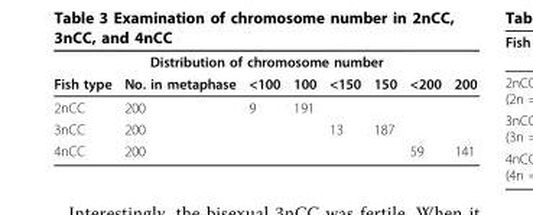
<table><thead><tr><td colspan="8">Distribution of chromosome number</td></tr><tr><td>Fish type</td><td>No. in metaphase</td><td>&lt;100</td><td>100</td><td>&lt;150</td><td>150</td><td>&lt;200</td><td>200</td></tr></thead><tbody><tr><td>2nCC</td><td>200</td><td>9</td><td>191</td><td></td><td></td><td></td><td></td></tr><tr><td>3nCC</td><td>200</td><td></td><td></td><td>13</td><td>187</td><td></td><td></td></tr><tr><td>4nCC</td><td>200</td><td></td><td></td><td></td><td></td><td>59</td><td>141</td></tr></tbody></table>